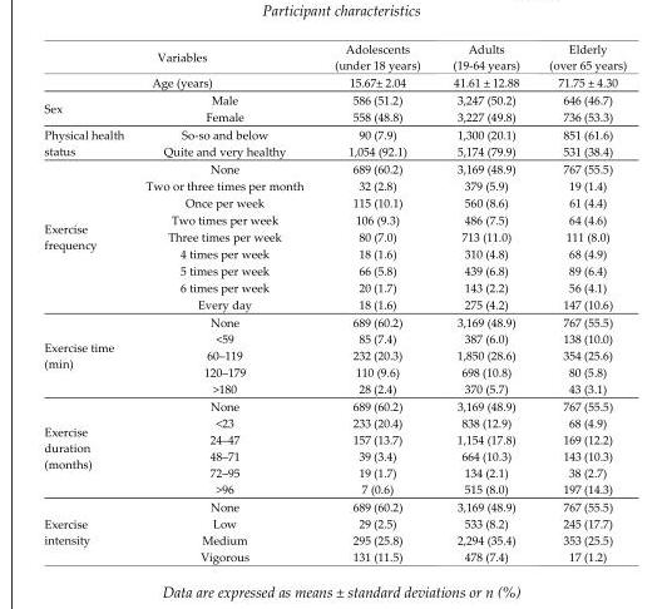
<table><thead><tr><td></td><td>Variables</td><td>Adolescents (under 18 years)</td><td>Adults (19-64 years)</td><td>Elderly (over 65 years)</td></tr></thead><tbody><tr><td></td><td>Age (years)</td><td>15.67± 2.04</td><td>41.61 ± 12.88</td><td>71.75 ± 4.30</td></tr><tr><td rowspan="2">Sex</td><td>Male</td><td>586 (51.2)</td><td>3,247 (50.2)</td><td>646 (46.7)</td></tr><tr><td>Female</td><td>558 (48.8)</td><td>3,227 (49.8)</td><td>736 (53.3)</td></tr><tr><td rowspan="2">Physical health status</td><td>So-so and below</td><td>90 (7.9)</td><td>1,300 (20.1)</td><td>851 (61.6)</td></tr><tr><td>Quite and very healthy</td><td>1,054 (92.1)</td><td>5,174 (79.9)</td><td>531 (38.4)</td></tr><tr><td rowspan="9">Exercise frequency</td><td>None</td><td>689 (60.2)</td><td>3,169 (48.9)</td><td>767 (55.5)</td></tr><tr><td>Two or three times per month</td><td>32 (2.8)</td><td>379 (5.9)</td><td>19 (1.4)</td></tr><tr><td>Once per week</td><td>115 (10.1)</td><td>560 (8.6)</td><td>61 (4.4)</td></tr><tr><td>Two times per week</td><td>106 (9.3)</td><td>486 (7.5)</td><td>64 (4.6)</td></tr><tr><td>Three times per week</td><td>80 (7.0)</td><td>713 (11.0)</td><td>111 (8.0)</td></tr><tr><td>4 times per week</td><td>18 (1.6)</td><td>310 (4.8)</td><td>68 (4.9)</td></tr><tr><td>5 times per week</td><td>66 (5.8)</td><td>439 (6.8)</td><td>89 (6.4)</td></tr><tr><td>6 times per week</td><td>20 (1.7)</td><td>143 (2.2)</td><td>56 (4.1)</td></tr><tr><td>Every day</td><td>18 (1.6)</td><td>275 (4.2)</td><td>147 (10.6)</td></tr><tr><td rowspan="5">Exercise time (min)</td><td>None</td><td>689 (60.2)</td><td>3,169 (48.9)</td><td>767 (55.5)</td></tr><tr><td>&lt;59</td><td>85 (7.4)</td><td>387 (6.0)</td><td>138 (10.0)</td></tr><tr><td>60–119</td><td>232 (20.3)</td><td>1,850 (28.6)</td><td>354 (25.6)</td></tr><tr><td>120–179</td><td>110 (9.6)</td><td>698 (10.8)</td><td>80 (5.8)</td></tr><tr><td>&gt;180</td><td>28 (2.4)</td><td>370 (5.7)</td><td>43 (3.1)</td></tr><tr><td rowspan="6">Exercise duration (months)</td><td>None</td><td>689 (60.2)</td><td>3,169 (48.9)</td><td>767 (55.5)</td></tr><tr><td>&lt;23</td><td>233 (20.4)</td><td>838 (12.9)</td><td>68 (4.9)</td></tr><tr><td>24–47</td><td>157 (13.7)</td><td>1,154 (17.8)</td><td>169 (12.2)</td></tr><tr><td>48–71</td><td>39 (3.4)</td><td>664 (10.3)</td><td>143 (10.3)</td></tr><tr><td>72–95</td><td>19 (1.7)</td><td>134 (2.1)</td><td>38 (2.7)</td></tr><tr><td>&gt;96</td><td>7 (0.6)</td><td>515 (8.0)</td><td>197 (14.3)</td></tr><tr><td rowspan="4">Exercise intensity</td><td>None</td><td>689 (60.2)</td><td>3,169 (48.9)</td><td>767 (55.5)</td></tr><tr><td>Low</td><td>29 (2.5)</td><td>533 (8.2)</td><td>245 (17.7)</td></tr><tr><td>Medium</td><td>295 (25.8)</td><td>2,294 (35.4)</td><td>353 (25.5)</td></tr><tr><td>Vigorous</td><td>131 (11.5)</td><td>478 (7.4)</td><td>17 (1.2)</td></tr></tbody></table>